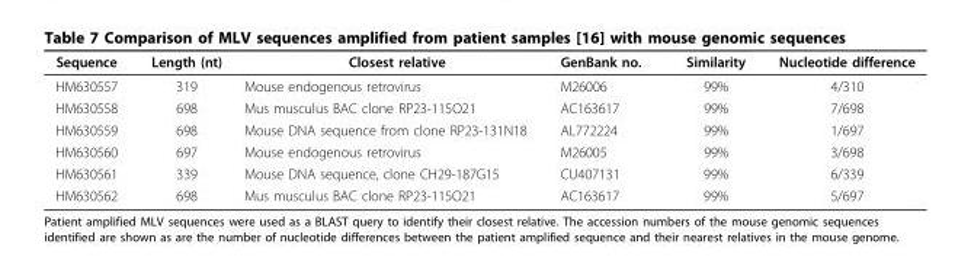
<table><thead><tr><td>Sequence</td><td>Length (nt)</td><td>Closest relative</td><td>GenBank no.</td><td>Similarity</td><td>Nucleotide difference</td></tr></thead><tbody><tr><td>HM630557</td><td>319</td><td>Mouse endogenous retrovirus</td><td>M26006</td><td>99%</td><td>4/310</td></tr><tr><td>HM630558</td><td>698</td><td>Mus musculus BAC clone RP23-115O21</td><td>AC163617</td><td>99%</td><td>7/698</td></tr><tr><td>HM630559</td><td>698</td><td>Mouse DNA sequence from clone RP23-131N18</td><td>AL772224</td><td>99%</td><td>1/697</td></tr><tr><td>HM630560</td><td>697</td><td>Mouse endogenous retrovirus</td><td>M26005</td><td>99%</td><td>3/698</td></tr><tr><td>HM630561</td><td>339</td><td>Mouse DNA sequence, clone CH29-187G15</td><td>CU407131</td><td>99%</td><td>6/339</td></tr><tr><td>HM630562</td><td>698</td><td>Mus musculus BAC clone RP23-115O21</td><td>AC163617</td><td>99%</td><td>5/697</td></tr></tbody></table>